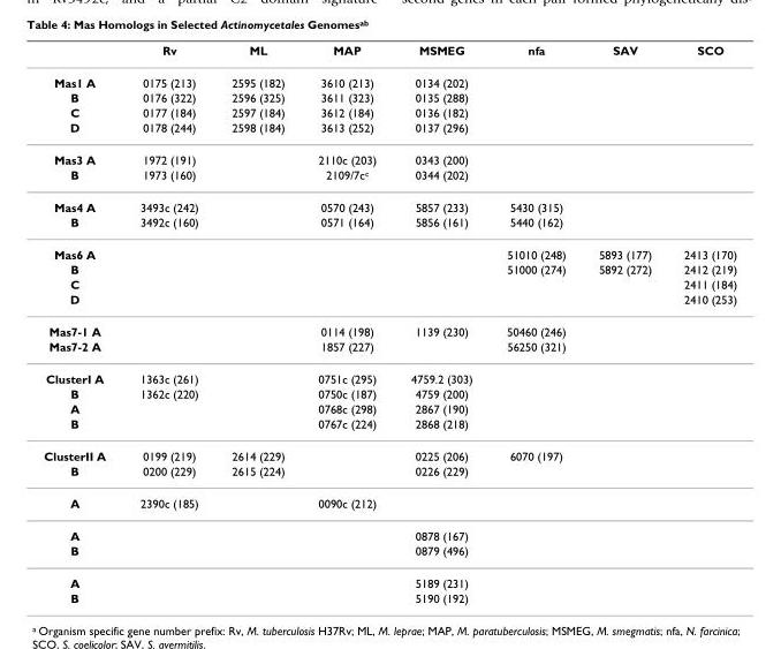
<table><thead><tr><td></td><td>Rv</td><td>ML</td><td>MAP</td><td>MSMEG</td><td>nfa</td><td>SAV</td><td>SCO</td></tr></thead><tbody><tr><td>Mas1 A</td><td>0175 (213)</td><td>2595 (182)</td><td>3610 (213)</td><td>0134 (202)</td><td></td><td></td><td></td></tr><tr><td>B</td><td>0176 (322)</td><td>2596 (325)</td><td>3611 (323)</td><td>0135 (288)</td><td></td><td></td><td></td></tr><tr><td>C</td><td>0177 (184)</td><td>2597 (184)</td><td>3612 (184)</td><td>0136 (182)</td><td></td><td></td><td></td></tr><tr><td>D</td><td>0178 (244)</td><td>2598 (184)</td><td>3613 (252)</td><td>0137 (296)</td><td></td><td></td><td></td></tr><tr><td>Mas3 A</td><td>1972 (191)</td><td></td><td>2110c (203)</td><td>0343 (200)</td><td></td><td></td><td></td></tr><tr><td>B</td><td>1973 (160)</td><td></td><td>2109/7cc</td><td>0344 (202)</td><td></td><td></td><td></td></tr><tr><td>Mas4 A</td><td>3493c (242)</td><td></td><td>0570 (243)</td><td>5857 (233)</td><td>5430 (315)</td><td></td><td></td></tr><tr><td>B</td><td>3492c (160)</td><td></td><td>0571 (164)</td><td>5856 (161)</td><td>5440 (162)</td><td></td><td></td></tr><tr><td>Mas6 A</td><td></td><td></td><td></td><td></td><td>51010 (248)</td><td>5893 (177)</td><td>2413 (170)</td></tr><tr><td>B</td><td></td><td></td><td></td><td></td><td>51000 (274)</td><td>5892 (272)</td><td>2412 (219)</td></tr><tr><td>C</td><td></td><td></td><td></td><td></td><td></td><td></td><td>2411 (184)</td></tr><tr><td>D</td><td></td><td></td><td></td><td></td><td></td><td></td><td>2410 (253)</td></tr><tr><td>Mas7-1 A</td><td></td><td></td><td>0114 (198)</td><td>1139 (230)</td><td>50460 (246)</td><td></td><td></td></tr><tr><td>Mas7-2 A</td><td></td><td></td><td>1857 (227)</td><td></td><td>56250 (321)</td><td></td><td></td></tr><tr><td>ClusterI A</td><td>1363c (261)</td><td></td><td>0751c (295)</td><td>4759.2 (303)</td><td></td><td></td><td></td></tr><tr><td>B</td><td>1362c (220)</td><td></td><td>0750c (187)</td><td>4759 (200)</td><td></td><td></td><td></td></tr><tr><td>A</td><td></td><td></td><td>0768c (298)</td><td>2867 (190)</td><td></td><td></td><td></td></tr><tr><td>B</td><td></td><td></td><td>0767c (224)</td><td>2868 (218)</td><td></td><td></td><td></td></tr><tr><td>ClusterII A</td><td>0199 (219)</td><td>2614 (229)</td><td></td><td>0225 (206)</td><td>6070 (197)</td><td></td><td></td></tr><tr><td>B</td><td>0200 (229)</td><td>2615 (224)</td><td></td><td>0226 (229)</td><td></td><td></td><td></td></tr><tr><td>A</td><td>2390c (185)</td><td></td><td>0090c (212)</td><td></td><td></td><td></td><td></td></tr><tr><td>A</td><td></td><td></td><td></td><td>0878 (167)</td><td></td><td></td><td></td></tr><tr><td>B</td><td></td><td></td><td></td><td>0879 (496)</td><td></td><td></td><td></td></tr><tr><td>A</td><td></td><td></td><td></td><td>5189 (231)</td><td></td><td></td><td></td></tr><tr><td>B</td><td></td><td></td><td></td><td>5190 (192)</td><td></td><td></td><td></td></tr></tbody></table>